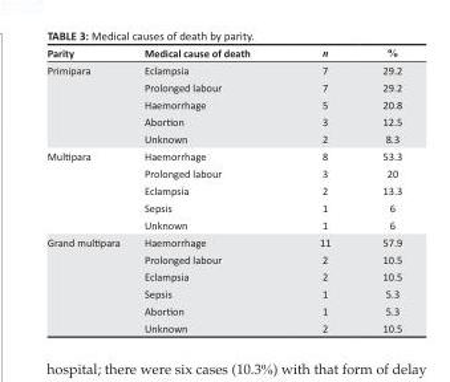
<table><thead><tr><td>Parity</td><td>Medical cause of death</td><td>n</td><td>%</td></tr></thead><tbody><tr><td rowspan="5">Primipara</td><td>Eclampsia</td><td>7</td><td>29.2</td></tr><tr><td>Prolonged labour</td><td>7</td><td>29.2</td></tr><tr><td>Haemorrhage</td><td>5</td><td>20.8</td></tr><tr><td>Abortion</td><td>3</td><td>12.5</td></tr><tr><td>Unknown</td><td>2</td><td>8.3</td></tr><tr><td rowspan="5">Multipara</td><td>Haemorrhage</td><td>8</td><td>53.3</td></tr><tr><td>Prolonged labour</td><td>3</td><td>20</td></tr><tr><td>Eclampsia</td><td>2</td><td>13.3</td></tr><tr><td>Sepsis</td><td>1</td><td>6</td></tr><tr><td>Unknown</td><td>1</td><td>6</td></tr><tr><td rowspan="6">Grand multipara</td><td>Haemorrhage</td><td>11</td><td>57.9</td></tr><tr><td>Prolonged labour</td><td>2</td><td>10.5</td></tr><tr><td>Eclampsia</td><td>2</td><td>10.5</td></tr><tr><td>Sepsis</td><td>1</td><td>5.3</td></tr><tr><td>Abortion</td><td>1</td><td>5.3</td></tr><tr><td>Unknown</td><td>2</td><td>10.5</td></tr></tbody></table>